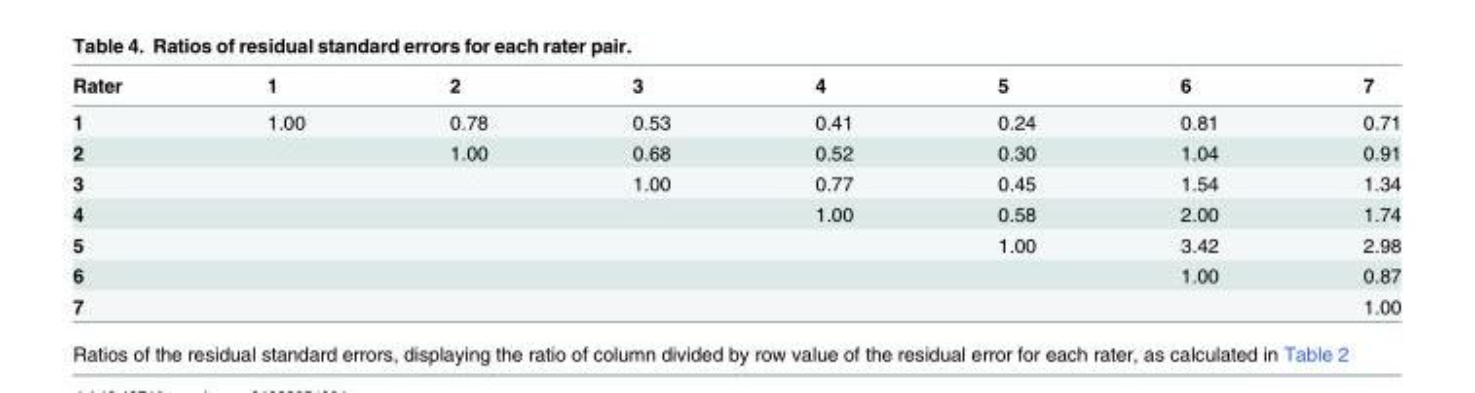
<table><thead><tr><td>Rater</td><td>1</td><td>2</td><td>3</td><td>4</td><td>5</td><td>6</td><td>7</td></tr></thead><tbody><tr><td>1</td><td>1.00</td><td>0.78</td><td>0.53</td><td>0.41</td><td>0.24</td><td>0.81</td><td>0.71</td></tr><tr><td>2</td><td></td><td>1.00</td><td>0.68</td><td>0.52</td><td>0.30</td><td>1.04</td><td>0.91</td></tr><tr><td>3</td><td></td><td></td><td>1.00</td><td>0.77</td><td>0.45</td><td>1.54</td><td>1.34</td></tr><tr><td>4</td><td></td><td></td><td></td><td>1.00</td><td>0.58</td><td>2.00</td><td>1.74</td></tr><tr><td>5</td><td></td><td></td><td></td><td></td><td>1.00</td><td>3.42</td><td>2.98</td></tr><tr><td>6</td><td></td><td></td><td></td><td></td><td></td><td>1.00</td><td>0.87</td></tr><tr><td>7</td><td></td><td></td><td></td><td></td><td></td><td></td><td>1.00</td></tr></tbody></table>